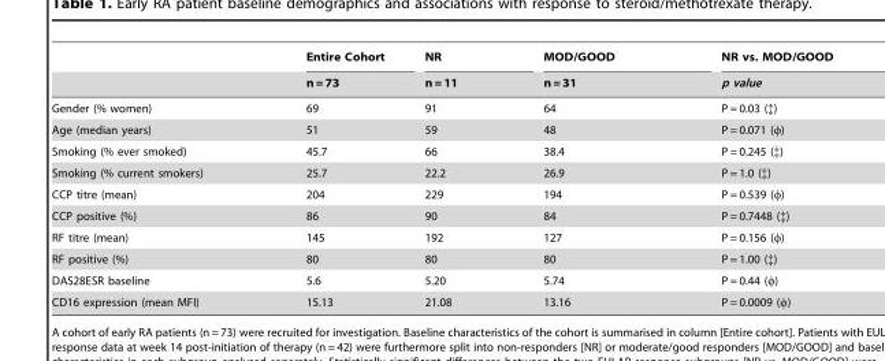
<table><thead><tr><td rowspan="2"></td><td rowspan="2">Entire Cohort n = 73</td><td rowspan="2">NR n = 11</td><td rowspan="2">MOD/GOOD n = 31</td><td rowspan="2">NR vs. MOD/GOOD p value</td></tr><tr></tr></thead><tbody><tr><td>Gender (% women)</td><td>69</td><td>91</td><td>64</td><td>P = 0.03 (‡)</td></tr><tr><td>Age (median years)</td><td>51</td><td>59</td><td>48</td><td>P = 0.071 (φ)</td></tr><tr><td>Smoking (% ever smoked)</td><td>45.7</td><td>66</td><td>38.4</td><td>P = 0.245 (‡)</td></tr><tr><td>Smoking (% current smokers)</td><td>25.7</td><td>22.2</td><td>26.9</td><td>P = 1.0 (‡)</td></tr><tr><td>CCP titre (mean)</td><td>204</td><td>229</td><td>194</td><td>P = 0.539 (φ)</td></tr><tr><td>CCP positive (%)</td><td>86</td><td>90</td><td>84</td><td>P = 0.7448 (‡)</td></tr><tr><td>RF titre (mean)</td><td>145</td><td>192</td><td>127</td><td>P = 0.156 (φ)</td></tr><tr><td>RF positive (%)</td><td>80</td><td>80</td><td>80</td><td>P = 1.00 (‡)</td></tr><tr><td>DAS28ESR baseline</td><td>5.6</td><td>5.20</td><td>5.74</td><td>P = 0.44 (φ)</td></tr><tr><td>CD16 expression (mean MFI)</td><td>15.13</td><td>21.08</td><td>13.16</td><td>P = 0.0009 (φ)</td></tr></tbody></table>